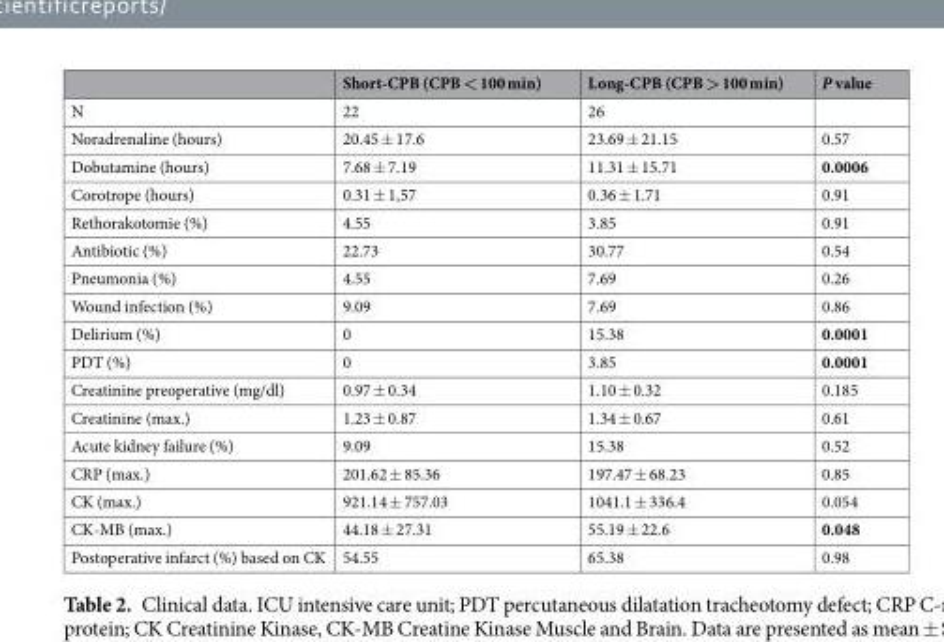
<table><thead><tr><td></td><td>Short-CPB (CPB &lt; 100 min)</td><td>Long-CPB (CPB &gt; 100 min)</td><td>P value</td></tr></thead><tbody><tr><td>N</td><td>22</td><td>26</td><td></td></tr><tr><td>Noradrenaline (hours)</td><td>20.45 ± 17.6</td><td>23.69 ± 21.15</td><td>0.57</td></tr><tr><td>Dobutamine (hours)</td><td>7.68 ± 7.19</td><td>11.31 ± 15.71</td><td>0.0006</td></tr><tr><td>Corotrope (hours)</td><td>0.31 ± 1,57</td><td>0.36 ± 1.71</td><td>0.91</td></tr><tr><td>Rethorakotomie (%)</td><td>4.55</td><td>3.85</td><td>0.91</td></tr><tr><td>Antibiotic (%)</td><td>22.73</td><td>30.77</td><td>0.54</td></tr><tr><td>Pneumonia (%)</td><td>4.55</td><td>7.69</td><td>0.26</td></tr><tr><td>Wound infection (%)</td><td>9.09</td><td>7.69</td><td>0.86</td></tr><tr><td>Delirium (%)</td><td>0</td><td>15.38</td><td>0.0001</td></tr><tr><td>PDT (%)</td><td>0</td><td>3.85</td><td>0.0001</td></tr><tr><td>Creatinine preoperative (mg/dl)</td><td>0.97 ± 0.34</td><td>1.10 ± 0.32</td><td>0.185</td></tr><tr><td>Creatinine (max.)</td><td>1.23 ± 0.87</td><td>1.34 ± 0.67</td><td>0.61</td></tr><tr><td>Acute kidney failure (%)</td><td>9.09</td><td>15.38</td><td>0.52</td></tr><tr><td>CRP (max.)</td><td>201.62 ± 85.36</td><td>197.47 ± 68.23</td><td>0.85</td></tr><tr><td>CK (max.)</td><td>921.14 ± 757.03</td><td>1041.1 ± 336.4</td><td>0.054</td></tr><tr><td>CK-MB (max.)</td><td>44.18 ± 27.31</td><td>55.19 ± 22.6</td><td>0.048</td></tr><tr><td>Postoperative infarct (%) based on CK</td><td>54.55</td><td>65.38</td><td>0.98</td></tr></tbody></table>